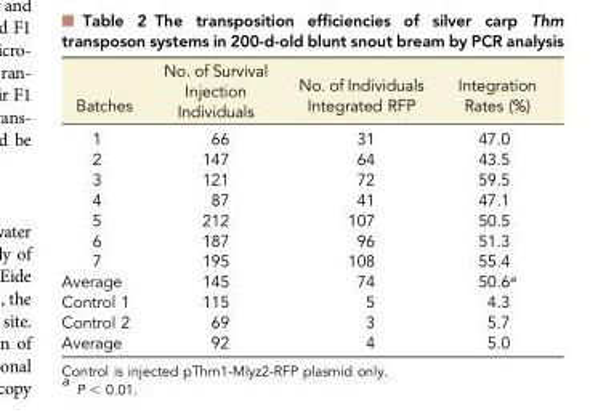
<table><thead><tr><td>Batches</td><td>No. of Survival Injection Individuals</td><td>No. of Individuals Integrated RFP</td><td>Integration Rates (%)</td></tr></thead><tbody><tr><td>1</td><td>66</td><td>31</td><td>47.0</td></tr><tr><td>2</td><td>147</td><td>64</td><td>43.5</td></tr><tr><td>3</td><td>121</td><td>72</td><td>59.5</td></tr><tr><td>4</td><td>87</td><td>41</td><td>47.1</td></tr><tr><td>5</td><td>212</td><td>107</td><td>50.5</td></tr><tr><td>6</td><td>187</td><td>96</td><td>51.3</td></tr><tr><td>7</td><td>195</td><td>108</td><td>55.4</td></tr><tr><td>Average</td><td>145</td><td>74</td><td>50.6<sup>a</sup></td></tr><tr><td>Control 1</td><td>115</td><td>5</td><td>4.3</td></tr><tr><td>Control 2</td><td>69</td><td>3</td><td>5.7</td></tr><tr><td>Average</td><td>92</td><td>4</td><td>5.0</td></tr></tbody></table>